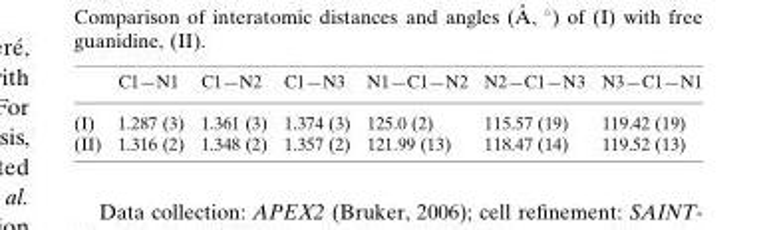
<table><thead><tr><td></td><td>C1—N1</td><td>C1—N2</td><td>C1—N3</td><td>N1—C1—N2</td><td>N2—C1—N3</td><td>N3—C1—N1</td></tr></thead><tbody><tr><td>(I)</td><td>1.287 (3)</td><td>1.361 (3)</td><td>1.374 (3)</td><td>125.0 (2)</td><td>115.57 (19)</td><td>119.42 (19)</td></tr><tr><td>(II)</td><td>1.316 (2)</td><td>1.348 (2)</td><td>1.357 (2)</td><td>121.99 (13)</td><td>118.47 (14)</td><td>119.52 (13)</td></tr></tbody></table>